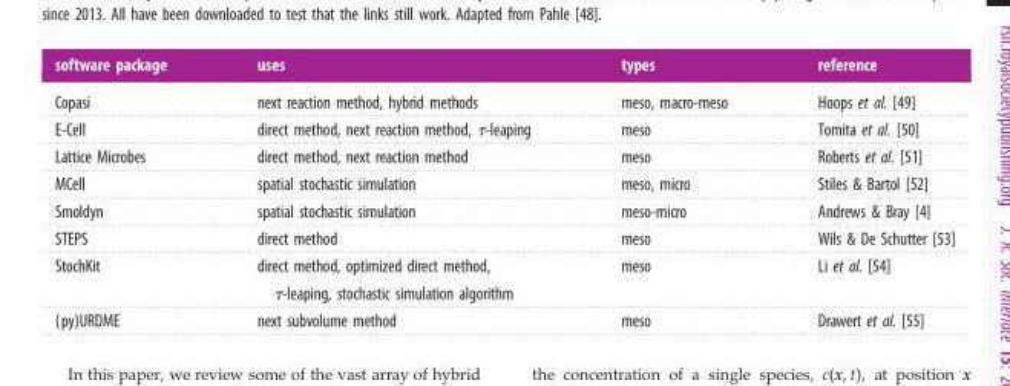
<table><thead><tr><td>software package</td><td>uses</td><td>types</td><td>reference</td></tr></thead><tbody><tr><td>Copasi</td><td>next reaction method, hybrid methods</td><td>meso, macro-meso</td><td>Hoops et al. [49]</td></tr><tr><td>E-Cell</td><td>direct method, next reaction method, τ-leaping</td><td>meso</td><td>Tomita et al. [50]</td></tr><tr><td>Lattice Microbes</td><td>direct method, next reaction method</td><td>meso</td><td>Roberts et al. [51]</td></tr><tr><td>MCell</td><td>spatial stochastic simulation</td><td>meso, micro</td><td>Stiles &amp; Bartol [52]</td></tr><tr><td>Smoldyn</td><td>spatial stochastic simulation</td><td>meso-micro</td><td>Andrews &amp; Bray [4]</td></tr><tr><td>STEPS</td><td>direct method</td><td>meso</td><td>Wils &amp; De Schutter [53]</td></tr><tr><td>StochKit</td><td>direct method, optimized direct method, τ-leaping, stochastic simulation algorithm</td><td>meso</td><td>Li et al. [54]</td></tr><tr><td>(py)URDME</td><td>next subvolume method</td><td>meso</td><td>Drawert et al. [55]</td></tr></tbody></table>